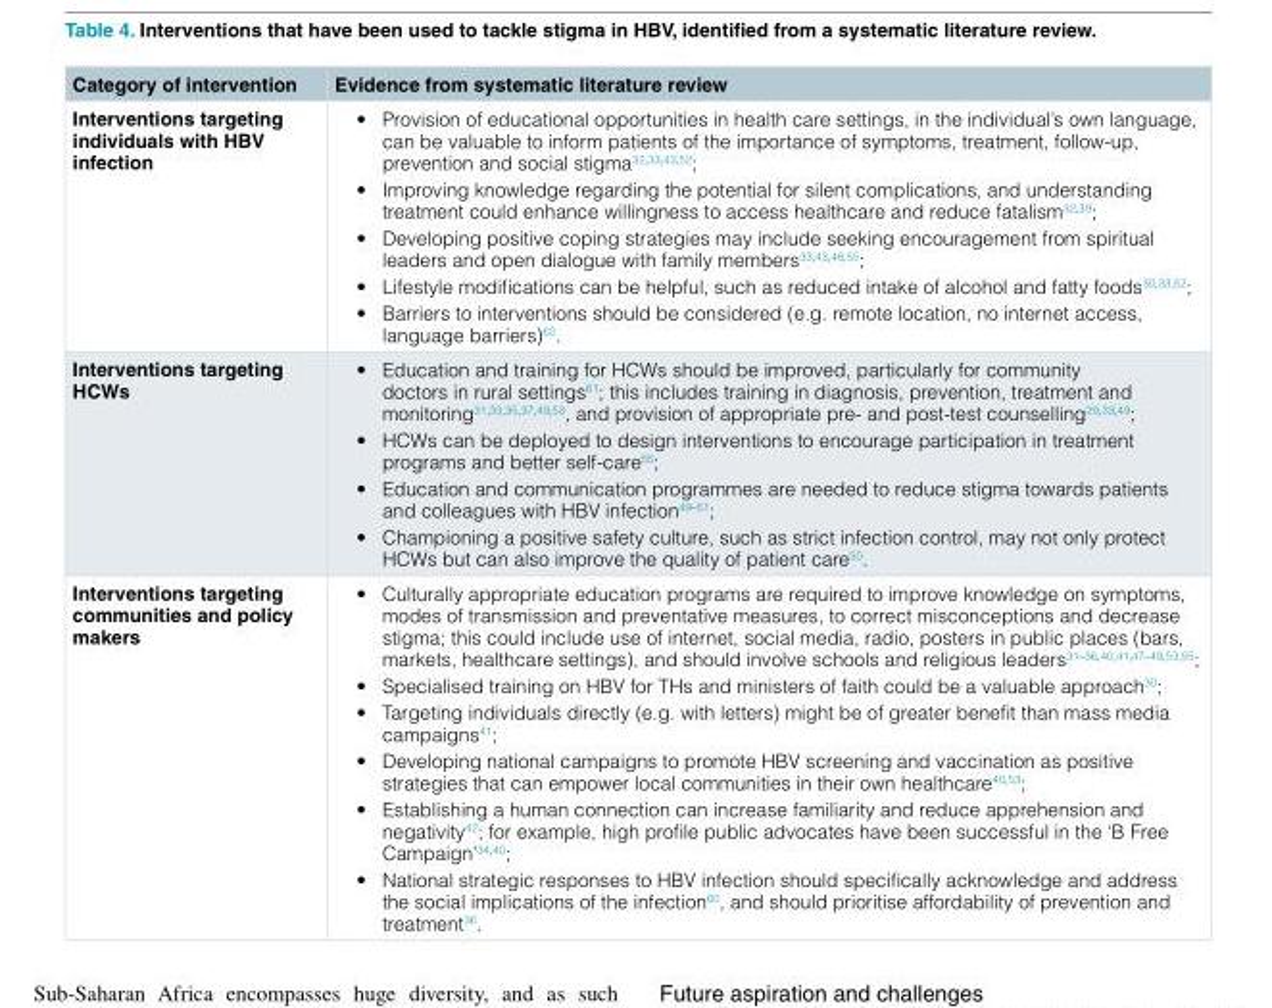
<table><thead><tr><td>Category of intervention</td><td>Evidence from systematic literature review</td></tr></thead><tbody><tr><td>Interventions targeting individuals with HBV infection</td><td>• Provision of educational opportunities in health care settings, in the individual’s own language, can be valuable to inform patients of the importance of symptoms, treatment, follow-up, prevention and social stigma<sup>32,33,43,52</sup>; • Improving knowledge regarding the potential for silent complications, and understanding treatment could enhance willingness to access healthcare and reduce fatalism<sup>32,39</sup>; • Developing positive coping strategies may include seeking encouragement from spiritual leaders and open dialogue with family members<sup>33,43,48,55</sup>; • Lifestyle modifications can be helpful, such as reduced intake of alcohol and fatty foods<sup>30,33,52</sup>; • Barriers to interventions should be considered (e.g. remote location, no internet access, language barriers)<sup>62</sup>.</td></tr><tr><td>Interventions targeting HCWs</td><td>• Education and training for HCWs should be improved, particularly for community doctors in rural settings<sup>61</sup>; this includes training in diagnosis, prevention, treatment and monitoring<sup>31,33,35,37,49,53</sup>, and provision of appropriate pre- and post-test counselling<sup>29,33,49</sup>; • HCWs can be deployed to design interventions to encourage participation in treatment programs and better self-care<sup>55</sup>; • Education and communication programmes are needed to reduce stigma towards patients and colleagues with HBV infection<sup>49–51</sup>; • Championing a positive safety culture, such as strict infection control, may not only protect HCWs but can also improve the quality of patient care<sup>50</sup>.</td></tr><tr><td>Interventions targeting communities and policy makers</td><td>• Culturally appropriate education programs are required to improve knowledge on symptoms, modes of transmission and preventative measures, to correct misconceptions and decrease stigma; this could include use of internet, social media, radio, posters in public places (bars, markets, healthcare settings), and should involve schools and religious leaders<sup>31–36,40,41,47–49,53,55</sup>; • Specialised training on HBV for THs and ministers of faith could be a valuable approach<sup>30</sup>; • Targeting individuals directly (e.g. with letters) might be of greater benefit than mass media campaigns<sup>41</sup>; • Developing national campaigns to promote HBV screening and vaccination as positive strategies that can empower local communities in their own healthcare<sup>40,53</sup>; • Establishing a human connection can increase familiarity and reduce apprehension and negativity<sup>42</sup>; for example, high profile public advocates have been successful in the ‘B Free Campaign’<sup>34,40</sup>; • National strategic responses to HBV infection should specifically acknowledge and address the social implications of the infection<sup>60</sup>, and should prioritise affordability of prevention and treatment<sup>36</sup>.</td></tr></tbody></table>